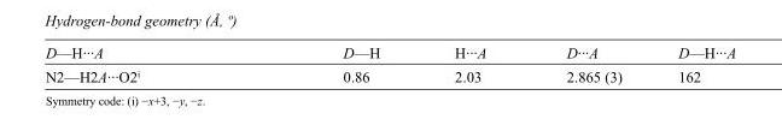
<table><tbody><tr><td>D—H···A</td><td>D—H</td><td>H···A</td><td>D···A</td><td>D—H···A</td></tr><tr><td>N2—H2A···O2<sup>i</sup></td><td>0.86</td><td>2.03</td><td>2.865 (3)</td><td>162</td></tr></tbody></table>